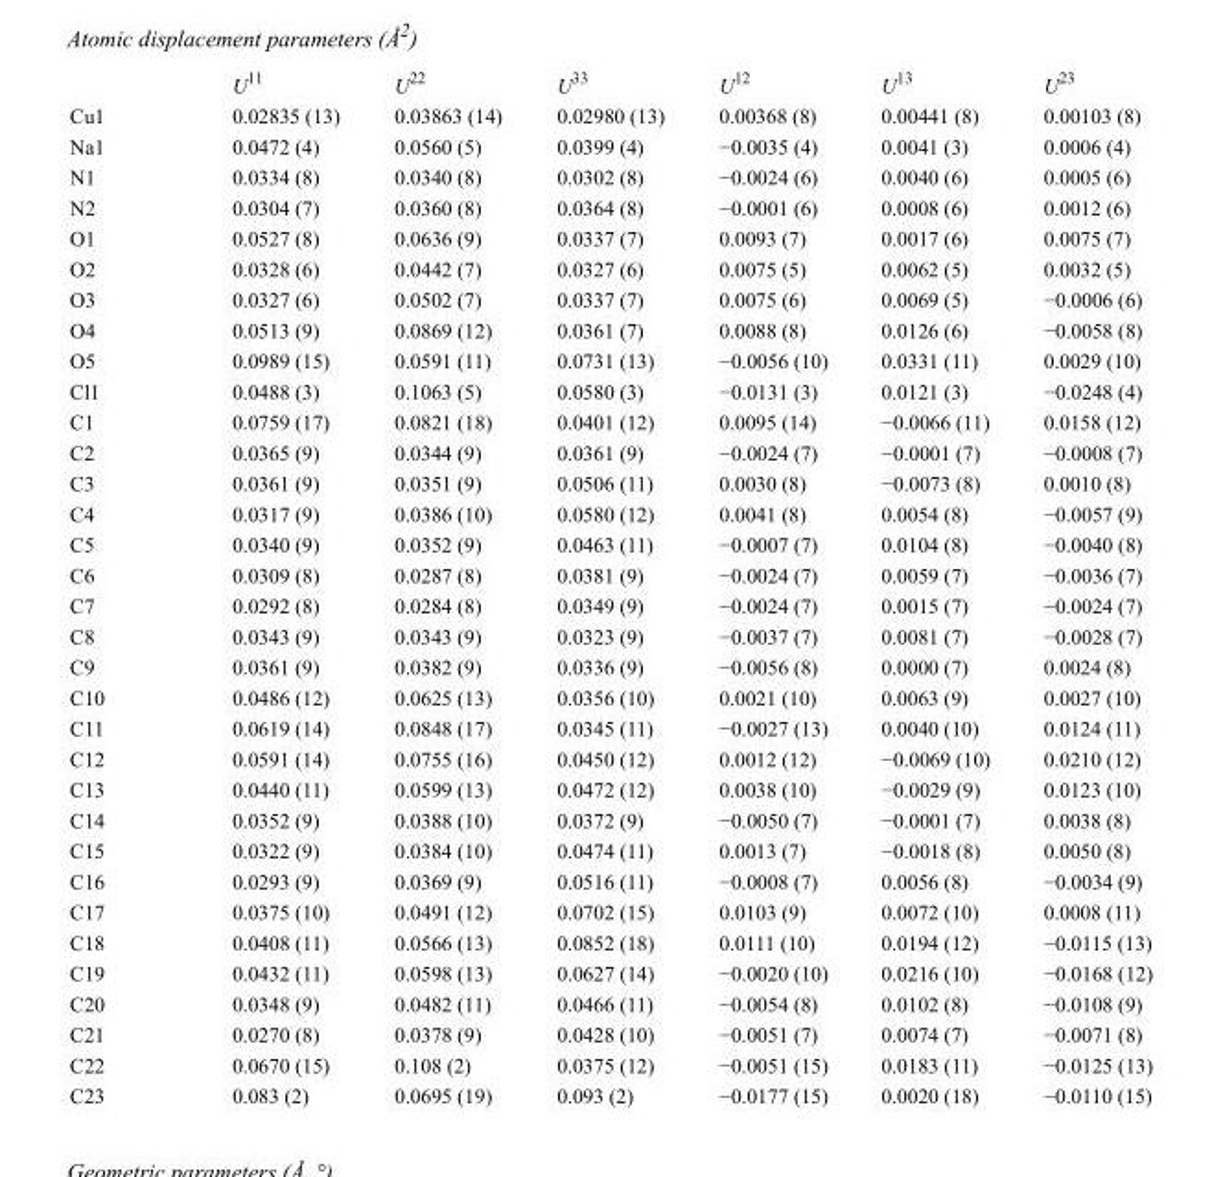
<table><thead><tr><td></td><td>U<sup>11</sup></td><td>U<sup>22</sup></td><td>U<sup>33</sup></td><td>U<sup>12</sup></td><td>U<sup>13</sup></td><td>U<sup>23</sup></td></tr></thead><tbody><tr><td>Cu1</td><td>0.02835 (13)</td><td>0.03863 (14)</td><td>0.02980 (13)</td><td>0.00368 (8)</td><td>0.00441 (8)</td><td>0.00103 (8)</td></tr><tr><td>Na1</td><td>0.0472 (4)</td><td>0.0560 (5)</td><td>0.0399 (4)</td><td>−0.0035 (4)</td><td>0.0041 (3)</td><td>0.0006 (4)</td></tr><tr><td>N1</td><td>0.0334 (8)</td><td>0.0340 (8)</td><td>0.0302 (8)</td><td>−0.0024 (6)</td><td>0.0040 (6)</td><td>0.0005 (6)</td></tr><tr><td>N2</td><td>0.0304 (7)</td><td>0.0360 (8)</td><td>0.0364 (8)</td><td>−0.0001 (6)</td><td>0.0008 (6)</td><td>0.0012 (6)</td></tr><tr><td>O1</td><td>0.0527 (8)</td><td>0.0636 (9)</td><td>0.0337 (7)</td><td>0.0093 (7)</td><td>0.0017 (6)</td><td>0.0075 (7)</td></tr><tr><td>O2</td><td>0.0328 (6)</td><td>0.0442 (7)</td><td>0.0327 (6)</td><td>0.0075 (5)</td><td>0.0062 (5)</td><td>0.0032 (5)</td></tr><tr><td>O3</td><td>0.0327 (6)</td><td>0.0502 (7)</td><td>0.0337 (7)</td><td>0.0075 (6)</td><td>0.0069 (5)</td><td>−0.0006 (6)</td></tr><tr><td>O4</td><td>0.0513 (9)</td><td>0.0869 (12)</td><td>0.0361 (7)</td><td>0.0088 (8)</td><td>0.0126 (6)</td><td>−0.0058 (8)</td></tr><tr><td>O5</td><td>0.0989 (15)</td><td>0.0591 (11)</td><td>0.0731 (13)</td><td>−0.0056 (10)</td><td>0.0331 (11)</td><td>0.0029 (10)</td></tr><tr><td>Cl1</td><td>0.0488 (3)</td><td>0.1063 (5)</td><td>0.0580 (3)</td><td>−0.0131 (3)</td><td>0.0121 (3)</td><td>−0.0248 (4)</td></tr><tr><td>C1</td><td>0.0759 (17)</td><td>0.0821 (18)</td><td>0.0401 (12)</td><td>0.0095 (14)</td><td>−0.0066 (11)</td><td>0.0158 (12)</td></tr><tr><td>C2</td><td>0.0365 (9)</td><td>0.0344 (9)</td><td>0.0361 (9)</td><td>−0.0024 (7)</td><td>−0.0001 (7)</td><td>−0.0008 (7)</td></tr><tr><td>C3</td><td>0.0361 (9)</td><td>0.0351 (9)</td><td>0.0506 (11)</td><td>0.0030 (8)</td><td>−0.0073 (8)</td><td>0.0010 (8)</td></tr><tr><td>C4</td><td>0.0317 (9)</td><td>0.0386 (10)</td><td>0.0580 (12)</td><td>0.0041 (8)</td><td>0.0054 (8)</td><td>−0.0057 (9)</td></tr><tr><td>C5</td><td>0.0340 (9)</td><td>0.0352 (9)</td><td>0.0463 (11)</td><td>−0.0007 (7)</td><td>0.0104 (8)</td><td>−0.0040 (8)</td></tr><tr><td>C6</td><td>0.0309 (8)</td><td>0.0287 (8)</td><td>0.0381 (9)</td><td>−0.0024 (7)</td><td>0.0059 (7)</td><td>−0.0036 (7)</td></tr><tr><td>C7</td><td>0.0292 (8)</td><td>0.0284 (8)</td><td>0.0349 (9)</td><td>−0.0024 (7)</td><td>0.0015 (7)</td><td>−0.0024 (7)</td></tr><tr><td>C8</td><td>0.0343 (9)</td><td>0.0343 (9)</td><td>0.0323 (9)</td><td>−0.0037 (7)</td><td>0.0081 (7)</td><td>−0.0028 (7)</td></tr><tr><td>C9</td><td>0.0361 (9)</td><td>0.0382 (9)</td><td>0.0336 (9)</td><td>−0.0056 (8)</td><td>0.0000 (7)</td><td>0.0024 (8)</td></tr><tr><td>C10</td><td>0.0486 (12)</td><td>0.0625 (13)</td><td>0.0356 (10)</td><td>0.0021 (10)</td><td>0.0063 (9)</td><td>0.0027 (10)</td></tr><tr><td>C11</td><td>0.0619 (14)</td><td>0.0848 (17)</td><td>0.0345 (11)</td><td>−0.0027 (13)</td><td>0.0040 (10)</td><td>0.0124 (11)</td></tr><tr><td>C12</td><td>0.0591 (14)</td><td>0.0755 (16)</td><td>0.0450 (12)</td><td>0.0012 (12)</td><td>−0.0069 (10)</td><td>0.0210 (12)</td></tr><tr><td>C13</td><td>0.0440 (11)</td><td>0.0599 (13)</td><td>0.0472 (12)</td><td>0.0038 (10)</td><td>−0.0029 (9)</td><td>0.0123 (10)</td></tr><tr><td>C14</td><td>0.0352 (9)</td><td>0.0388 (10)</td><td>0.0372 (9)</td><td>−0.0050 (7)</td><td>−0.0001 (7)</td><td>0.0038 (8)</td></tr><tr><td>C15</td><td>0.0322 (9)</td><td>0.0384 (10)</td><td>0.0474 (11)</td><td>0.0013 (7)</td><td>−0.0018 (8)</td><td>0.0050 (8)</td></tr><tr><td>C16</td><td>0.0293 (9)</td><td>0.0369 (9)</td><td>0.0516 (11)</td><td>−0.0008 (7)</td><td>0.0056 (8)</td><td>−0.0034 (9)</td></tr><tr><td>C17</td><td>0.0375 (10)</td><td>0.0491 (12)</td><td>0.0702 (15)</td><td>0.0103 (9)</td><td>0.0072 (10)</td><td>0.0008 (11)</td></tr><tr><td>C18</td><td>0.0408 (11)</td><td>0.0566 (13)</td><td>0.0852 (18)</td><td>0.0111 (10)</td><td>0.0194 (12)</td><td>−0.0115 (13)</td></tr><tr><td>C19</td><td>0.0432 (11)</td><td>0.0598 (13)</td><td>0.0627 (14)</td><td>−0.0020 (10)</td><td>0.0216 (10)</td><td>−0.0168 (12)</td></tr><tr><td>C20</td><td>0.0348 (9)</td><td>0.0482 (11)</td><td>0.0466 (11)</td><td>−0.0054 (8)</td><td>0.0102 (8)</td><td>−0.0108 (9)</td></tr><tr><td>C21</td><td>0.0270 (8)</td><td>0.0378 (9)</td><td>0.0428 (10)</td><td>−0.0051 (7)</td><td>0.0074 (7)</td><td>−0.0071 (8)</td></tr><tr><td>C22</td><td>0.0670 (15)</td><td>0.108 (2)</td><td>0.0375 (12)</td><td>−0.0051 (15)</td><td>0.0183 (11)</td><td>−0.0125 (13)</td></tr><tr><td>C23</td><td>0.083 (2)</td><td>0.0695 (19)</td><td>0.093 (2)</td><td>−0.0177 (15)</td><td>0.0020 (18)</td><td>−0.0110 (15)</td></tr></tbody></table>